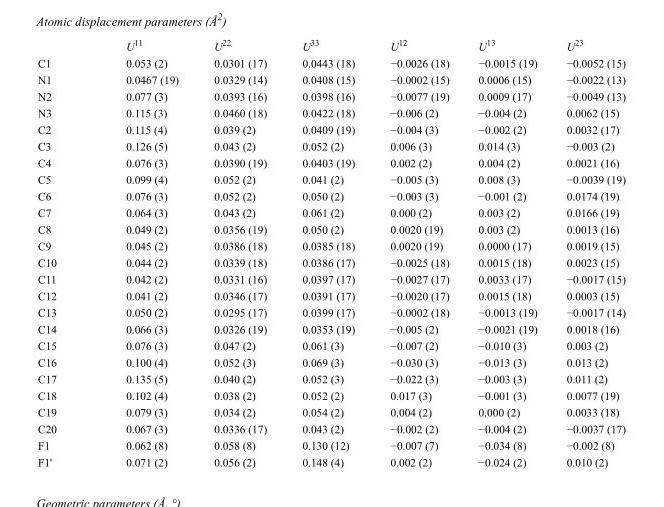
<table><thead><tr><td></td><td>U<sup>11</sup></td><td>U<sup>22</sup></td><td>U<sup>33</sup></td><td>U<sup>12</sup></td><td>U<sup>13</sup></td><td>U<sup>23</sup></td></tr></thead><tbody><tr><td>C1</td><td>0.053 (2)</td><td>0.0301 (17)</td><td>0.0443 (18)</td><td>−0.0026 (18)</td><td>−0.0015 (19)</td><td>−0.0052 (15)</td></tr><tr><td>N1</td><td>0.0467 (19)</td><td>0.0329 (14)</td><td>0.0408 (15)</td><td>−0.0002 (15)</td><td>0.0006 (15)</td><td>−0.0022 (13)</td></tr><tr><td>N2</td><td>0.077 (3)</td><td>0.0393 (16)</td><td>0.0398 (16)</td><td>−0.0077 (19)</td><td>0.0009 (17)</td><td>−0.0049 (13)</td></tr><tr><td>N3</td><td>0.115 (3)</td><td>0.0460 (18)</td><td>0.0422 (18)</td><td>−0.006 (2)</td><td>−0.004 (2)</td><td>0.0062 (15)</td></tr><tr><td>C2</td><td>0.115 (4)</td><td>0.039 (2)</td><td>0.0409 (19)</td><td>−0.004 (3)</td><td>−0.002 (2)</td><td>0.0032 (17)</td></tr><tr><td>C3</td><td>0.126 (5)</td><td>0.043 (2)</td><td>0.052 (2)</td><td>0.006 (3)</td><td>0.014 (3)</td><td>−0.003 (2)</td></tr><tr><td>C4</td><td>0.076 (3)</td><td>0.0390 (19)</td><td>0.0403 (19)</td><td>0.002 (2)</td><td>0.004 (2)</td><td>0.0021 (16)</td></tr><tr><td>C5</td><td>0.099 (4)</td><td>0.052 (2)</td><td>0.041 (2)</td><td>−0.005 (3)</td><td>0.008 (3)</td><td>−0.0039 (19)</td></tr><tr><td>C6</td><td>0.076 (3)</td><td>0.052 (2)</td><td>0.050 (2)</td><td>−0.003 (3)</td><td>−0.001 (2)</td><td>0.0174 (19)</td></tr><tr><td>C7</td><td>0.064 (3)</td><td>0.043 (2)</td><td>0.061 (2)</td><td>0.000 (2)</td><td>0.003 (2)</td><td>0.0166 (19)</td></tr><tr><td>C8</td><td>0.049 (2)</td><td>0.0356 (19)</td><td>0.050 (2)</td><td>0.0020 (19)</td><td>0.003 (2)</td><td>0.0013 (16)</td></tr><tr><td>C9</td><td>0.045 (2)</td><td>0.0386 (18)</td><td>0.0385 (18)</td><td>0.0020 (19)</td><td>0.0000 (17)</td><td>0.0019 (15)</td></tr><tr><td>C10</td><td>0.044 (2)</td><td>0.0339 (18)</td><td>0.0386 (17)</td><td>−0.0025 (18)</td><td>0.0015 (18)</td><td>0.0023 (15)</td></tr><tr><td>C11</td><td>0.042 (2)</td><td>0.0331 (16)</td><td>0.0397 (17)</td><td>−0.0027 (17)</td><td>0.0033 (17)</td><td>−0.0017 (15)</td></tr><tr><td>C12</td><td>0.041 (2)</td><td>0.0346 (17)</td><td>0.0391 (17)</td><td>−0.0020 (17)</td><td>0.0015 (18)</td><td>0.0003 (15)</td></tr><tr><td>C13</td><td>0.050 (2)</td><td>0.0295 (17)</td><td>0.0399 (17)</td><td>−0.0002 (18)</td><td>−0.0013 (19)</td><td>−0.0017 (14)</td></tr><tr><td>C14</td><td>0.066 (3)</td><td>0.0326 (19)</td><td>0.0353 (19)</td><td>−0.005 (2)</td><td>−0.0021 (19)</td><td>0.0018 (16)</td></tr><tr><td>C15</td><td>0.076 (3)</td><td>0.047 (2)</td><td>0.061 (3)</td><td>−0.007 (2)</td><td>−0.010 (3)</td><td>0.003 (2)</td></tr><tr><td>C16</td><td>0.100 (4)</td><td>0.052 (3)</td><td>0.069 (3)</td><td>−0.030 (3)</td><td>−0.013 (3)</td><td>0.013 (2)</td></tr><tr><td>C17</td><td>0.135 (5)</td><td>0.040 (2)</td><td>0.052 (3)</td><td>−0.022 (3)</td><td>−0.003 (3)</td><td>0.011 (2)</td></tr><tr><td>C18</td><td>0.102 (4)</td><td>0.038 (2)</td><td>0.052 (2)</td><td>0.017 (3)</td><td>−0.001 (3)</td><td>0.0077 (19)</td></tr><tr><td>C19</td><td>0.079 (3)</td><td>0.034 (2)</td><td>0.054 (2)</td><td>0.004 (2)</td><td>0.000 (2)</td><td>0.0033 (18)</td></tr><tr><td>C20</td><td>0.067 (3)</td><td>0.0336 (17)</td><td>0.043 (2)</td><td>−0.002 (2)</td><td>−0.004 (2)</td><td>−0.0037 (17)</td></tr><tr><td>F1</td><td>0.062 (8)</td><td>0.058 (8)</td><td>0.130 (12)</td><td>−0.007 (7)</td><td>−0.034 (8)</td><td>−0.002 (8)</td></tr><tr><td>F1&#x27;</td><td>0.071 (2)</td><td>0.056 (2)</td><td>0.148 (4)</td><td>0.002 (2)</td><td>−0.024 (2)</td><td>0.010 (2)</td></tr></tbody></table>